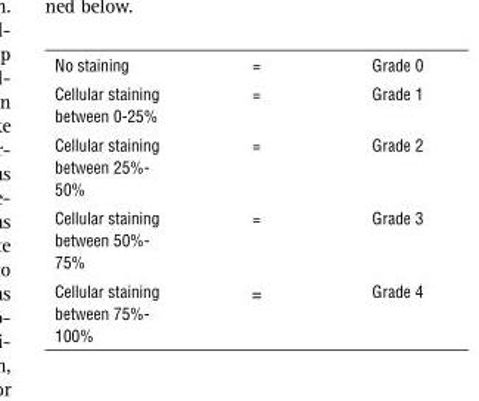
<table><tbody><tr><td>No staining</td><td>=</td><td>Grade 0</td></tr><tr><td>Cellular staining between 0-25%</td><td>=</td><td>Grade 1</td></tr><tr><td>Cellular staining between 25%- 50%</td><td>=</td><td>Grade 2</td></tr><tr><td>Cellular staining between 50%- 75%</td><td>=</td><td>Grade 3</td></tr><tr><td>Cellular staining between 75%- 100%</td><td>=</td><td>Grade 4</td></tr></tbody></table>